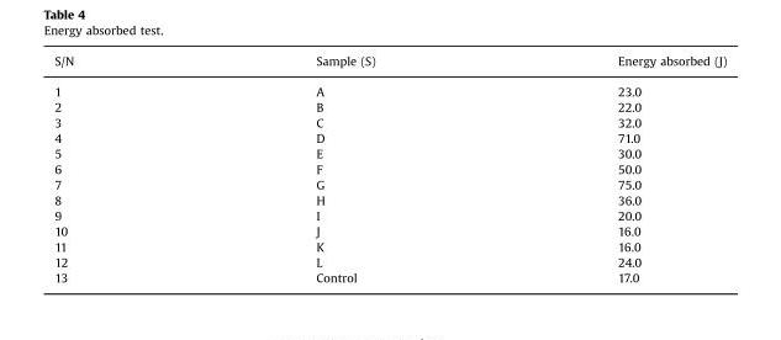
<table><thead><tr><td>S/N</td><td>Sample (S)</td><td>Energy absorbed (J)</td></tr></thead><tbody><tr><td>1</td><td>A</td><td>23.0</td></tr><tr><td>2</td><td>B</td><td>22.0</td></tr><tr><td>3</td><td>C</td><td>32.0</td></tr><tr><td>4</td><td>D</td><td>71.0</td></tr><tr><td>5</td><td>E</td><td>30.0</td></tr><tr><td>6</td><td>F</td><td>50.0</td></tr><tr><td>7</td><td>G</td><td>75.0</td></tr><tr><td>8</td><td>H</td><td>36.0</td></tr><tr><td>9</td><td>I</td><td>20.0</td></tr><tr><td>10</td><td>J</td><td>16.0</td></tr><tr><td>11</td><td>K</td><td>16.0</td></tr><tr><td>12</td><td>L</td><td>24.0</td></tr><tr><td>13</td><td>Control</td><td>17.0</td></tr></tbody></table>